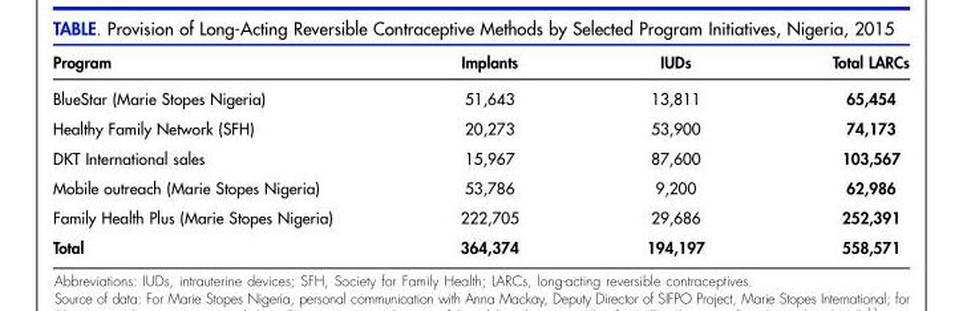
<table><thead><tr><td>Program</td><td>Implants</td><td>IUDs</td><td>Total LARCs</td></tr></thead><tbody><tr><td>BlueStar (Marie Stopes Nigeria)</td><td>51,643</td><td>13,811</td><td>65,454</td></tr><tr><td>Healthy Family Network (SFH)</td><td>20,273</td><td>53,900</td><td>74,173</td></tr><tr><td>DKT International sales</td><td>15,967</td><td>87,600</td><td>103,567</td></tr><tr><td>Mobile outreach (Marie Stopes Nigeria)</td><td>53,786</td><td>9,200</td><td>62,986</td></tr><tr><td>Family Health Plus (Marie Stopes Nigeria)</td><td>222,705</td><td>29,686</td><td>252,391</td></tr><tr><td>Total</td><td>364,374</td><td>194,197</td><td>558,571</td></tr></tbody></table>